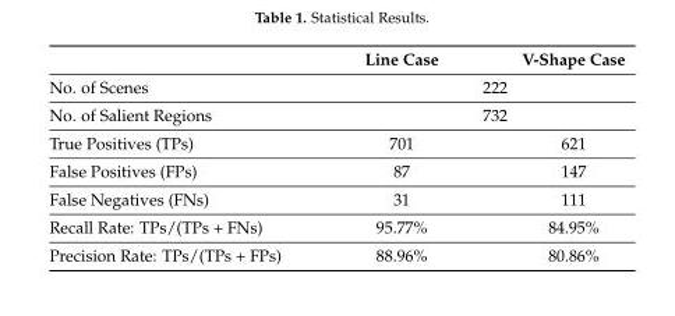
<table><thead><tr><td></td><td>Line Case</td><td>V-Shape Case</td></tr></thead><tbody><tr><td>No. of Scenes</td><td colspan="2">222</td></tr><tr><td>No. of Salient Regions</td><td colspan="2">732</td></tr><tr><td>True Positives (TPs)</td><td>701</td><td>621</td></tr><tr><td>False Positives (FPs)</td><td>87</td><td>147</td></tr><tr><td>False Negatives (FNs)</td><td>31</td><td>111</td></tr><tr><td>Recall Rate: TPs/(TPs + FNs)</td><td>95.77%</td><td>84.95%</td></tr><tr><td>Precision Rate: TPs/(TPs + FPs)</td><td>88.96%</td><td>80.86%</td></tr></tbody></table>